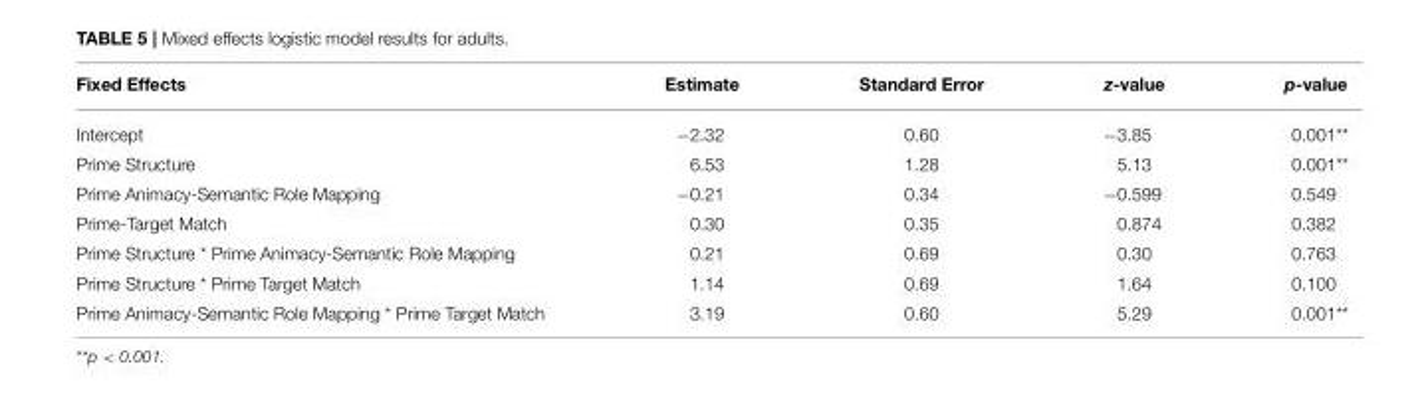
<table><thead><tr><td>Fixed Effects</td><td>Estimate</td><td>Standard Error</td><td>z-value</td><td>p-value</td></tr></thead><tbody><tr><td>Intercept</td><td>−2.32</td><td>0.60</td><td>−3.85</td><td>0.001**</td></tr><tr><td>Prime Structure</td><td>6.53</td><td>1.28</td><td>5.13</td><td>0.001**</td></tr><tr><td>Prime Animacy-Semantic Role Mapping</td><td>−0.21</td><td>0.34</td><td>−0.599</td><td>0.549</td></tr><tr><td>Prime-Target Match</td><td>0.30</td><td>0.35</td><td>0.874</td><td>0.382</td></tr><tr><td>Prime Structure * Prime Animacy-Semantic Role Mapping</td><td>0.21</td><td>0.69</td><td>0.30</td><td>0.763</td></tr><tr><td>Prime Structure * Prime Target Match</td><td>1.14</td><td>0.69</td><td>1.64</td><td>0.100</td></tr><tr><td>Prime Animacy-Semantic Role Mapping * Prime Target Match</td><td>3.19</td><td>0.60</td><td>5.29</td><td>0.001**</td></tr></tbody></table>